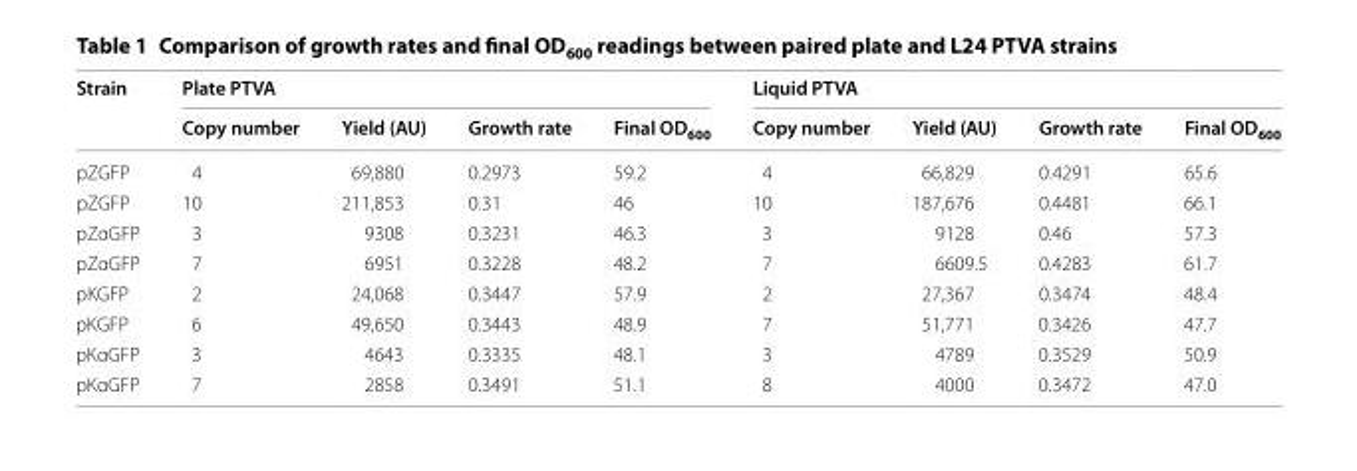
<table><thead><tr><td rowspan="2">Strain</td><td colspan="4">Plate PTVA</td><td colspan="4">Liquid PTVA</td></tr><tr><td>Copy number</td><td>Yield (AU)</td><td>Growth rate</td><td>Final OD<sub>600</sub></td><td>Copy number</td><td>Yield (AU)</td><td>Growth rate</td><td>Final OD<sub>600</sub></td></tr></thead><tbody><tr><td>pZGFP</td><td>4</td><td>69,880</td><td>0.2973</td><td>59.2</td><td>4</td><td>66,829</td><td>0.4291</td><td>65.6</td></tr><tr><td>pZGFP</td><td>10</td><td>211,853</td><td>0.31</td><td>46</td><td>10</td><td>187,676</td><td>0.4481</td><td>66.1</td></tr><tr><td>pZαGFP</td><td>3</td><td>9308</td><td>0.3231</td><td>46.3</td><td>3</td><td>9128</td><td>0.46</td><td>57.3</td></tr><tr><td>pZαGFP</td><td>7</td><td>6951</td><td>0.3228</td><td>48.2</td><td>7</td><td>6609.5</td><td>0.4283</td><td>61.7</td></tr><tr><td>pKGFP</td><td>2</td><td>24,068</td><td>0.3447</td><td>57.9</td><td>2</td><td>27,367</td><td>0.3474</td><td>48.4</td></tr><tr><td>pKGFP</td><td>6</td><td>49,650</td><td>0.3443</td><td>48.9</td><td>7</td><td>51,771</td><td>0.3426</td><td>47.7</td></tr><tr><td>pKαGFP</td><td>3</td><td>4643</td><td>0.3335</td><td>48.1</td><td>3</td><td>4789</td><td>0.3529</td><td>50.9</td></tr><tr><td>pKαGFP</td><td>7</td><td>2858</td><td>0.3491</td><td>51.1</td><td>8</td><td>4000</td><td>0.3472</td><td>47.0</td></tr></tbody></table>